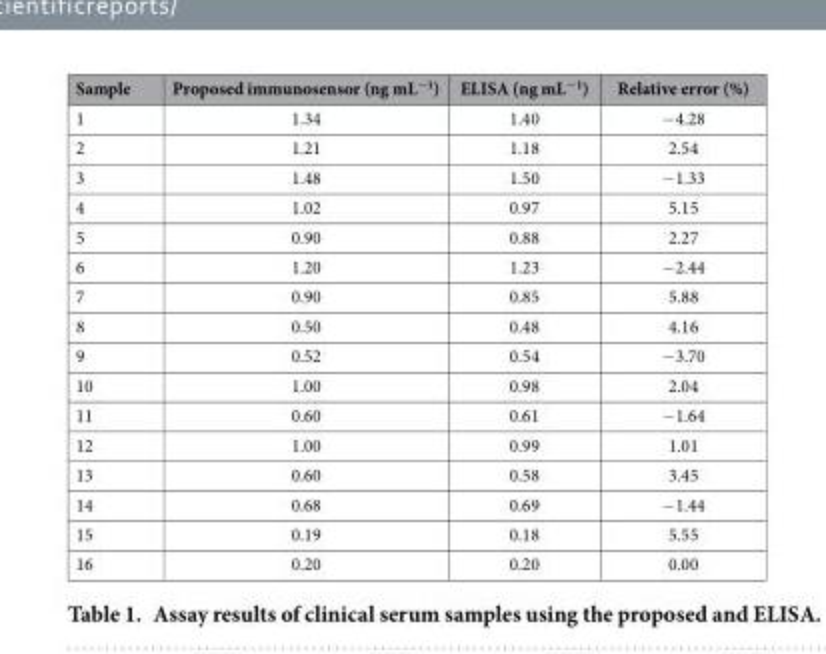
<table><thead><tr><td>Sample</td><td>Proposed immunosensor (ng mL<sup>−1</sup>)</td><td>ELISA (ng mL<sup>−1</sup>)</td><td>Relative error (%)</td></tr></thead><tbody><tr><td>1</td><td>1.34</td><td>1.40</td><td>− 4.28</td></tr><tr><td>2</td><td>1.21</td><td>1.18</td><td>2.54</td></tr><tr><td>3</td><td>1.48</td><td>1.50</td><td>− 1.33</td></tr><tr><td>4</td><td>1.02</td><td>0.97</td><td>5.15</td></tr><tr><td>5</td><td>0.90</td><td>0.88</td><td>2.27</td></tr><tr><td>6</td><td>1.20</td><td>1.23</td><td>− 2.44</td></tr><tr><td>7</td><td>0.90</td><td>0.85</td><td>5.88</td></tr><tr><td>8</td><td>0.50</td><td>0.48</td><td>4.16</td></tr><tr><td>9</td><td>0.52</td><td>0.54</td><td>− 3.70</td></tr><tr><td>10</td><td>1.00</td><td>0.98</td><td>2.04</td></tr><tr><td>11</td><td>0.60</td><td>0.61</td><td>− 1.64</td></tr><tr><td>12</td><td>1.00</td><td>0.99</td><td>1.01</td></tr><tr><td>13</td><td>0.60</td><td>0.58</td><td>3.45</td></tr><tr><td>14</td><td>0.68</td><td>0.69</td><td>− 1.44</td></tr><tr><td>15</td><td>0.19</td><td>0.18</td><td>5.55</td></tr><tr><td>16</td><td>0.20</td><td>0.20</td><td>0.00</td></tr></tbody></table>